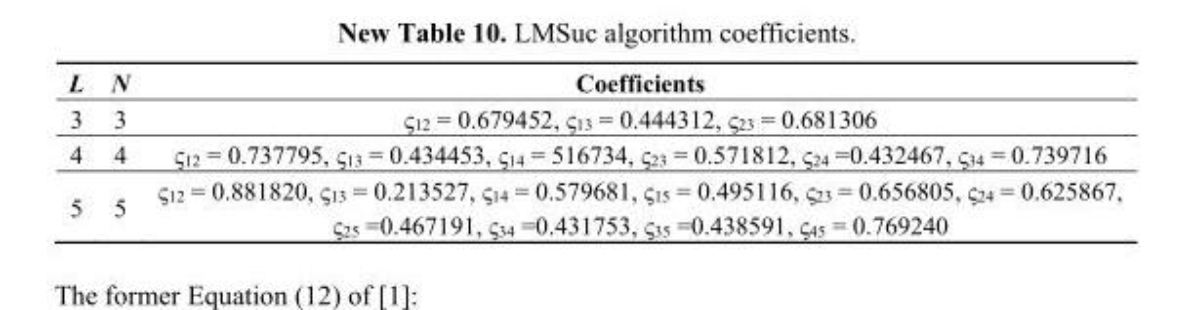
<table><thead><tr><td>L</td><td>N</td><td>Coefficients</td></tr></thead><tbody><tr><td>3</td><td>3</td><td>ς<sub>12</sub> = 0.679452, ς<sub>13</sub> = 0.444312, ς<sub>23</sub> = 0.681306</td></tr><tr><td>4</td><td>4</td><td>ς<sub>12</sub> = 0.737795, ς<sub>13</sub> = 0.434453, ς<sub>14</sub> = 516734, ς<sub>23</sub> = 0.571812, ς<sub>24</sub> =0.432467, ς<sub>34</sub> = 0.739716</td></tr><tr><td>5</td><td>5</td><td>ς<sub>12</sub> = 0.881820, ς<sub>13</sub> = 0.213527, ς<sub>14</sub> = 0.579681, ς<sub>15</sub> = 0.495116, ς<sub>23</sub> = 0.656805, ς<sub>24</sub> = 0.625867, ς<sub>25</sub> =0.467191, ς<sub>34</sub> =0.431753, ς<sub>35</sub> =0.438591, ς<sub>45</sub> = 0.769240</td></tr></tbody></table>